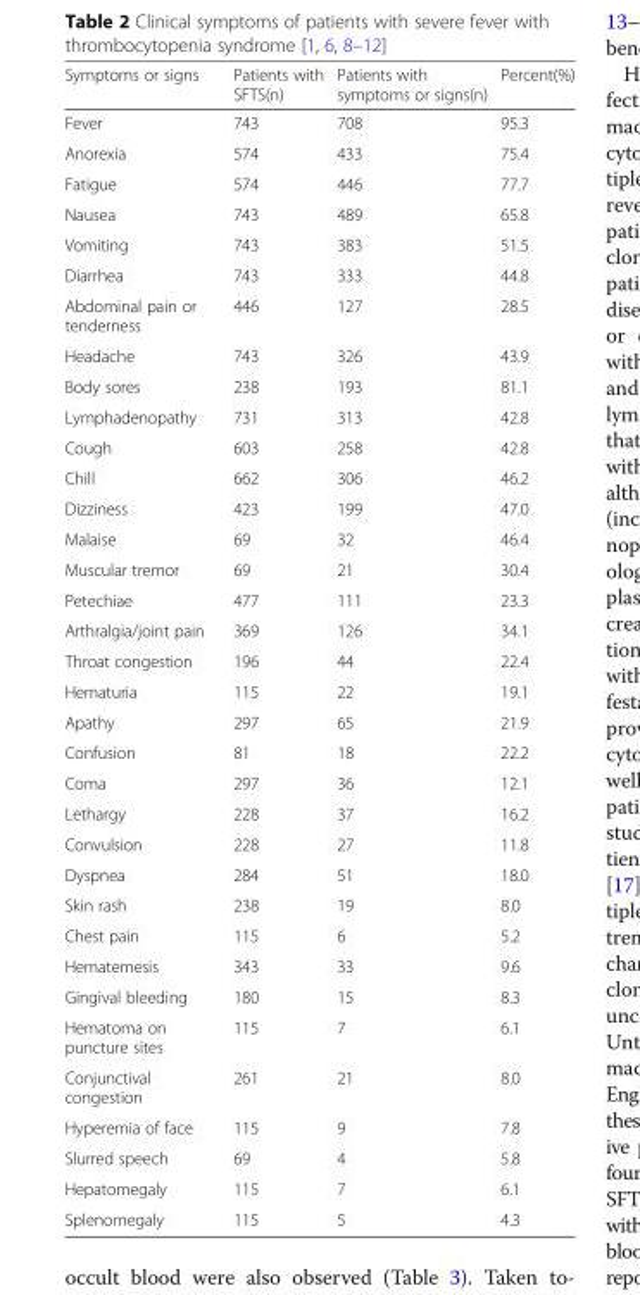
<table><thead><tr><td>Symptoms or signs</td><td>Patients with SFTS(n)</td><td>Patients with symptoms or signs(n)</td><td>Percent(%)</td></tr></thead><tbody><tr><td>Fever</td><td>743</td><td>708</td><td>95.3</td></tr><tr><td>Anorexia</td><td>574</td><td>433</td><td>75.4</td></tr><tr><td>Fatigue</td><td>574</td><td>446</td><td>77.7</td></tr><tr><td>Nausea</td><td>743</td><td>489</td><td>65.8</td></tr><tr><td>Vomiting</td><td>743</td><td>383</td><td>51.5</td></tr><tr><td>Diarrhea</td><td>743</td><td>333</td><td>44.8</td></tr><tr><td>Abdominal pain or tenderness</td><td>446</td><td>127</td><td>28.5</td></tr><tr><td>Headache</td><td>743</td><td>326</td><td>43.9</td></tr><tr><td>Body sores</td><td>238</td><td>193</td><td>81.1</td></tr><tr><td>Lymphadenopathy</td><td>731</td><td>313</td><td>42.8</td></tr><tr><td>Cough</td><td>603</td><td>258</td><td>42.8</td></tr><tr><td>Chill</td><td>662</td><td>306</td><td>46.2</td></tr><tr><td>Dizziness</td><td>423</td><td>199</td><td>47.0</td></tr><tr><td>Malaise</td><td>69</td><td>32</td><td>46.4</td></tr><tr><td>Muscular tremor</td><td>69</td><td>21</td><td>30.4</td></tr><tr><td>Petechiae</td><td>477</td><td>111</td><td>23.3</td></tr><tr><td>Arthralgia/joint pain</td><td>369</td><td>126</td><td>34.1</td></tr><tr><td>Throat congestion</td><td>196</td><td>44</td><td>22.4</td></tr><tr><td>Hematuria</td><td>115</td><td>22</td><td>19.1</td></tr><tr><td>Apathy</td><td>297</td><td>65</td><td>21.9</td></tr><tr><td>Confusion</td><td>81</td><td>18</td><td>22.2</td></tr><tr><td>Coma</td><td>297</td><td>36</td><td>12.1</td></tr><tr><td>Lethargy</td><td>228</td><td>37</td><td>16.2</td></tr><tr><td>Convulsion</td><td>228</td><td>27</td><td>11.8</td></tr><tr><td>Dyspnea</td><td>284</td><td>51</td><td>18.0</td></tr><tr><td>Skin rash</td><td>238</td><td>19</td><td>8.0</td></tr><tr><td>Chest pain</td><td>115</td><td>6</td><td>5.2</td></tr><tr><td>Hematemesis</td><td>343</td><td>33</td><td>9.6</td></tr><tr><td>Gingival bleeding</td><td>180</td><td>15</td><td>8.3</td></tr><tr><td>Hematoma on puncture sites</td><td>115</td><td>7</td><td>6.1</td></tr><tr><td>Conjunctival congestion</td><td>261</td><td>21</td><td>8.0</td></tr><tr><td>Hyperemia of face</td><td>115</td><td>9</td><td>7.8</td></tr><tr><td>Slurred speech</td><td>69</td><td>4</td><td>5.8</td></tr><tr><td>Hepatomegaly</td><td>115</td><td>7</td><td>6.1</td></tr><tr><td>Splenomegaly</td><td>115</td><td>5</td><td>4.3</td></tr></tbody></table>